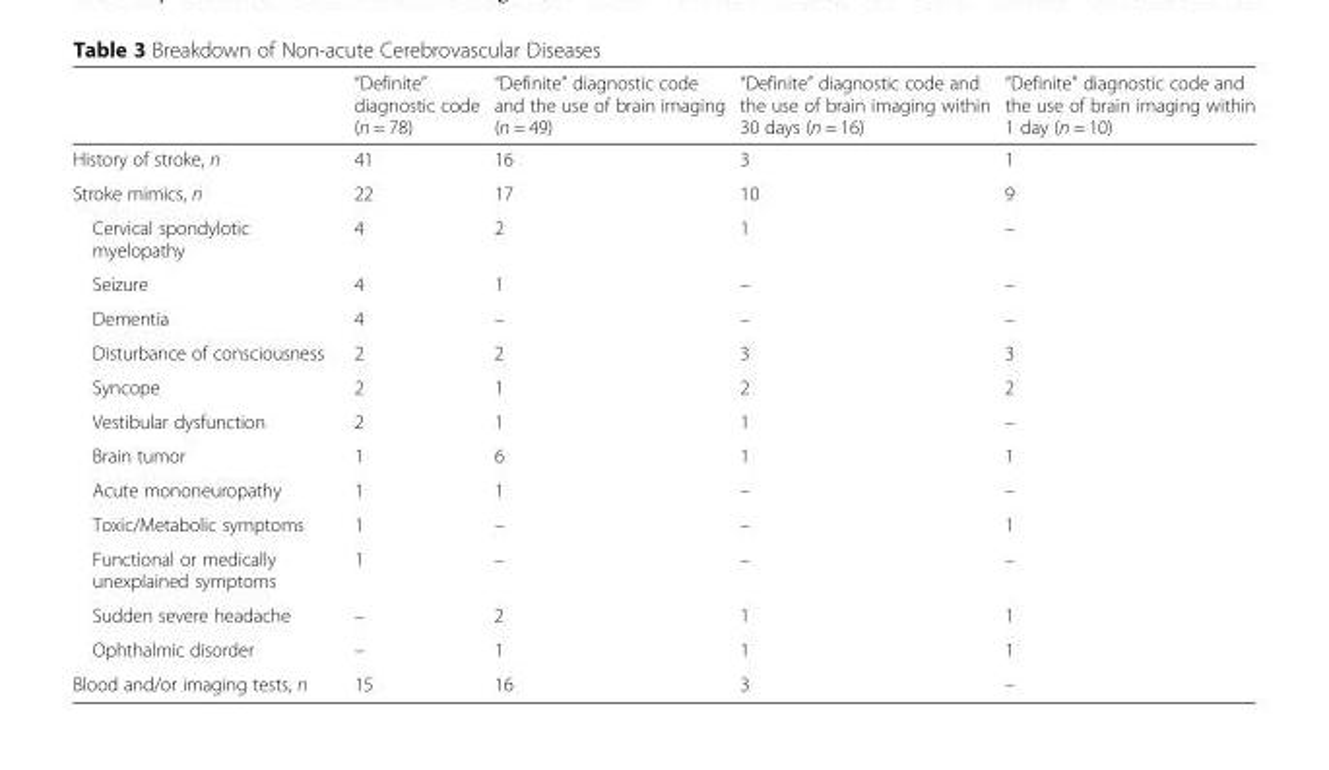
<table><thead><tr><td></td><td>“Definite” diagnostic code (n = 78)</td><td>“Definite” diagnostic code and the use of brain imaging (n = 49)</td><td>“Definite” diagnostic code and the use of brain imaging within 30 days (n = 16)</td><td>“Definite” diagnostic code and the use of brain imaging within 1 day (n = 10)</td></tr></thead><tbody><tr><td>History of stroke, n</td><td>41</td><td>16</td><td>3</td><td>1</td></tr><tr><td>Stroke mimics, n</td><td>22</td><td>17</td><td>10</td><td>9</td></tr><tr><td>Cervical spondylotic myelopathy</td><td>4</td><td>2</td><td>1</td><td>–</td></tr><tr><td>Seizure</td><td>4</td><td>1</td><td>–</td><td>–</td></tr><tr><td>Dementia</td><td>4</td><td>–</td><td>–</td><td>–</td></tr><tr><td>Disturbance of consciousness</td><td>2</td><td>2</td><td>3</td><td>3</td></tr><tr><td>Syncope</td><td>2</td><td>1</td><td>2</td><td>2</td></tr><tr><td>Vestibular dysfunction</td><td>2</td><td>1</td><td>1</td><td>–</td></tr><tr><td>Brain tumor</td><td>1</td><td>6</td><td>1</td><td>1</td></tr><tr><td>Acute mononeuropathy</td><td>1</td><td>1</td><td>–</td><td>–</td></tr><tr><td>Toxic/Metabolic symptoms</td><td>1</td><td>–</td><td>–</td><td>1</td></tr><tr><td>Functional or medically unexplained symptoms</td><td>1</td><td>–</td><td>–</td><td>–</td></tr><tr><td>Sudden severe headache</td><td>–</td><td>2</td><td>1</td><td>1</td></tr><tr><td>Ophthalmic disorder</td><td>–</td><td>1</td><td>1</td><td>1</td></tr><tr><td>Blood and/or imaging tests, n</td><td>15</td><td>16</td><td>3</td><td>–</td></tr></tbody></table>